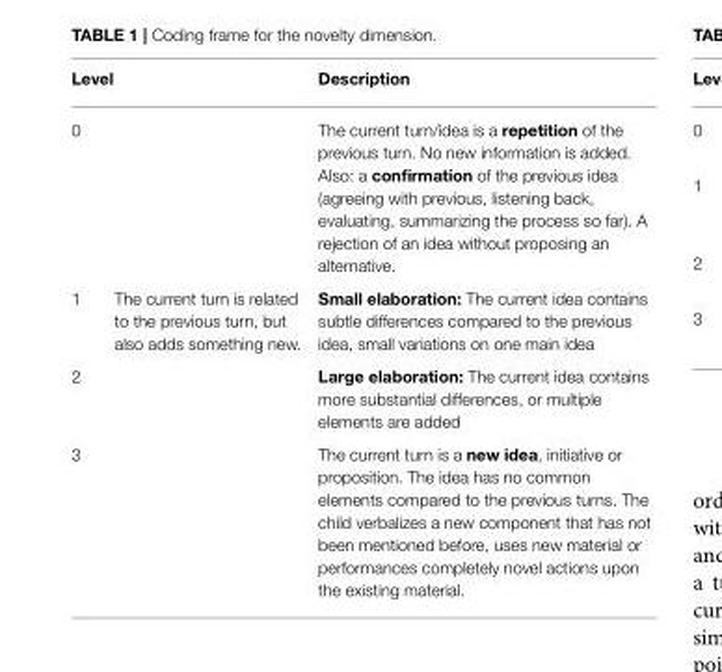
<table><thead><tr><td>Level</td><td></td><td>Description</td></tr></thead><tbody><tr><td>0</td><td></td><td>The current turn/idea is a repetition of the previous turn. No new information is added. Also: a confirmation of the previous idea (agreeing with previous, listening back, evaluating, summarizing the process so far). A rejection of an idea without proposing an alternative.</td></tr><tr><td>1</td><td>The current turn is related to the previous turn, but also adds something new.</td><td>Small elaboration: The current idea contains subtle differences compared to the previous idea, small variations on one main idea</td></tr><tr><td>2</td><td></td><td>Large elaboration: The current idea contains more substantial differences, or multiple elements are added</td></tr><tr><td>3</td><td></td><td>The current turn is a new idea, initiative or proposition. The idea has no common elements compared to the previous turns. The child verbalizes a new component that has not been mentioned before, uses new material or performances completely novel actions upon the existing material.</td></tr></tbody></table>